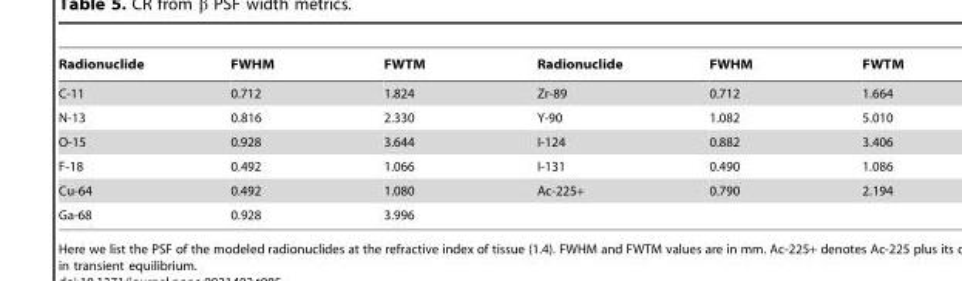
<table><thead><tr><td>Radionuclide</td><td>FWHM</td><td>FWTM</td><td>Radionuclide</td><td>FWHM</td><td>FWTM</td></tr></thead><tbody><tr><td>C-11</td><td>0.712</td><td>1.824</td><td>Zr-89</td><td>0.712</td><td>1.664</td></tr><tr><td>N-13</td><td>0.816</td><td>2.330</td><td>Y-90</td><td>1.082</td><td>5.010</td></tr><tr><td>O-15</td><td>0.928</td><td>3.644</td><td>I-124</td><td>0.882</td><td>3.406</td></tr><tr><td>F-18</td><td>0.492</td><td>1.066</td><td>I-131</td><td>0.490</td><td>1.086</td></tr><tr><td>Cu-64</td><td>0.492</td><td>1.080</td><td>Ac-225+</td><td>0.790</td><td>2.194</td></tr><tr><td>Ga-68</td><td>0.928</td><td>3.996</td><td></td><td></td><td></td></tr></tbody></table>